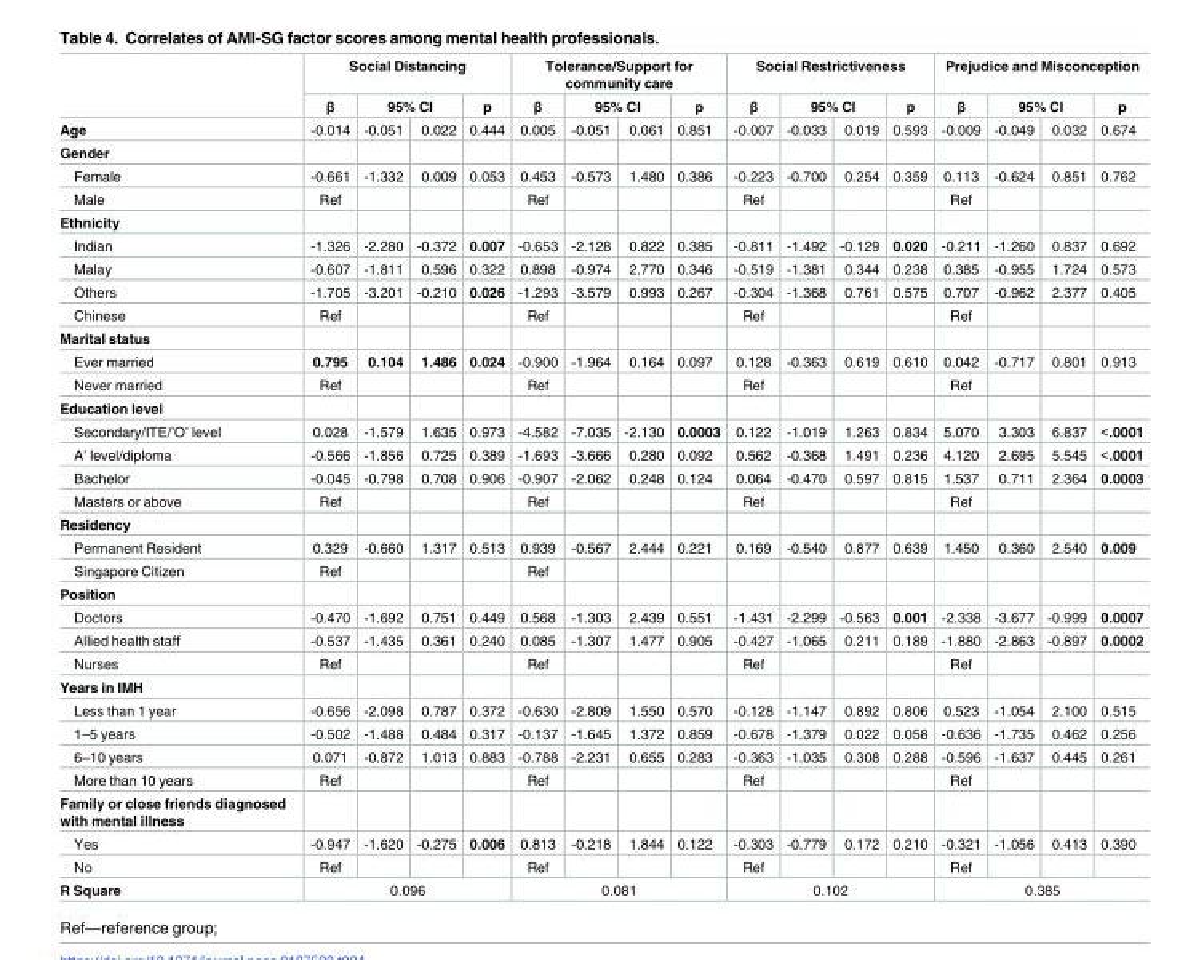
<table><thead><tr><td rowspan="3">Age</td><td colspan="4">Social Distancing</td><td colspan="4">Tolerance/Support for community care</td><td colspan="4">Social Restrictiveness</td><td colspan="4">Prejudice and Misconception</td></tr><tr><td rowspan="2">β -0.014</td><td colspan="2">95% CI</td><td rowspan="2">p 0.444</td><td rowspan="2">β 0.005</td><td colspan="2">95% CI</td><td rowspan="2">p 0.851</td><td rowspan="2">β -0.007</td><td colspan="2">95% CI</td><td rowspan="2">p 0.593</td><td rowspan="2">β -0.009</td><td colspan="2">95% CI</td><td rowspan="2">p 0.674</td></tr><tr><td>-0.051</td><td>0.022</td><td>-0.051</td><td>0.061</td><td>-0.033</td><td>0.019</td><td>-0.049</td><td>0.032</td></tr></thead><tbody><tr><td colspan="17">Gender</td></tr><tr><td>Female</td><td>-0.661</td><td>-1.332</td><td>0.009</td><td>0.053</td><td>0.453</td><td>-0.573</td><td>1.480</td><td>0.386</td><td>-0.223</td><td>-0.700</td><td>0.254</td><td>0.359</td><td>0.113</td><td>-0.624</td><td>0.851</td><td>0.762</td></tr><tr><td>Male</td><td>Ref</td><td></td><td></td><td></td><td>Ref</td><td></td><td></td><td></td><td>Ref</td><td></td><td></td><td></td><td>Ref</td><td></td><td></td><td></td></tr><tr><td colspan="17">Ethnicity</td></tr><tr><td>Indian</td><td>-1.326</td><td>-2.280</td><td>-0.372</td><td>0.007</td><td>-0.653</td><td>-2.128</td><td>0.822</td><td>0.385</td><td>-0.811</td><td>-1.492</td><td>-0.129</td><td>0.020</td><td>-0.211</td><td>-1.260</td><td>0.837</td><td>0.692</td></tr><tr><td>Malay</td><td>-0.607</td><td>-1.811</td><td>0.596</td><td>0.322</td><td>0.898</td><td>-0.974</td><td>2.770</td><td>0.346</td><td>-0.519</td><td>-1.381</td><td>0.344</td><td>0.238</td><td>0.385</td><td>-0.955</td><td>1.724</td><td>0.573</td></tr><tr><td>Others</td><td>-1.705</td><td>-3.201</td><td>-0.210</td><td>0.026</td><td>-1.293</td><td>-3.579</td><td>0.993</td><td>0.267</td><td>-0.304</td><td>-1.368</td><td>0.761</td><td>0.575</td><td>0.707</td><td>-0.962</td><td>2.377</td><td>0.405</td></tr><tr><td>Chinese</td><td>Ref</td><td></td><td></td><td></td><td>Ref</td><td></td><td></td><td></td><td>Ref</td><td></td><td></td><td></td><td>Ref</td><td></td><td></td><td></td></tr><tr><td colspan="17">Marital status</td></tr><tr><td>Ever married</td><td>0.795</td><td>0.104</td><td>1.486</td><td>0.024</td><td>-0.900</td><td>-1.964</td><td>0.164</td><td>0.097</td><td>0.128</td><td>-0.363</td><td>0.619</td><td>0.610</td><td>0.042</td><td>-0.717</td><td>0.801</td><td>0.913</td></tr><tr><td>Never married</td><td>Ref</td><td></td><td></td><td></td><td>Ref</td><td></td><td></td><td></td><td>Ref</td><td></td><td></td><td></td><td>Ref</td><td></td><td></td><td></td></tr><tr><td colspan="17">Education level</td></tr><tr><td>Secondary/ITE/’O’ level</td><td>0.028</td><td>-1.579</td><td>1.635</td><td>0.973</td><td>-4.582</td><td>-7.035</td><td>-2.130</td><td>0.0003</td><td>0.122</td><td>-1.019</td><td>1.263</td><td>0.834</td><td>5.070</td><td>3.303</td><td>6.837</td><td>&lt;.0001</td></tr><tr><td>A’ level/diploma</td><td>-0.566</td><td>-1.856</td><td>0.725</td><td>0.389</td><td>-1.693</td><td>-3.666</td><td>0.280</td><td>0.092</td><td>0.562</td><td>-0.368</td><td>1.491</td><td>0.236</td><td>4.120</td><td>2.695</td><td>5.545</td><td>&lt;.0001</td></tr><tr><td>Bachelor</td><td>-0.045</td><td>-0.798</td><td>0.708</td><td>0.906</td><td>-0.907</td><td>-2.062</td><td>0.248</td><td>0.124</td><td>0.064</td><td>-0.470</td><td>0.597</td><td>0.815</td><td>1.537</td><td>0.711</td><td>2.364</td><td>0.0003</td></tr><tr><td>Masters or above</td><td>Ref</td><td></td><td></td><td></td><td>Ref</td><td></td><td></td><td></td><td>Ref</td><td></td><td></td><td></td><td>Ref</td><td></td><td></td><td></td></tr><tr><td colspan="17">Residency</td></tr><tr><td>Permanent Resident</td><td>0.329</td><td>-0.660</td><td>1.317</td><td>0.513</td><td>0.939</td><td>-0.567</td><td>2.444</td><td>0.221</td><td>0.169</td><td>-0.540</td><td>0.877</td><td>0.639</td><td>1.450</td><td>0.360</td><td>2.540</td><td>0.009</td></tr><tr><td>Singapore Citizen</td><td>Ref</td><td></td><td></td><td></td><td>Ref</td><td></td><td></td><td></td><td></td><td></td><td></td><td></td><td></td><td></td><td></td><td></td></tr><tr><td colspan="17">Position</td></tr><tr><td>Doctors</td><td>-0.470</td><td>-1.692</td><td>0.751</td><td>0.449</td><td>0.568</td><td>-1.303</td><td>2.439</td><td>0.551</td><td>-1.431</td><td>-2.299</td><td>-0.563</td><td>0.001</td><td>-2.338</td><td>-3.677</td><td>-0.999</td><td>0.0007</td></tr><tr><td>Allied health staff</td><td>-0.537</td><td>-1.435</td><td>0.361</td><td>0.240</td><td>0.085</td><td>-1.307</td><td>1.477</td><td>0.905</td><td>-0.427</td><td>-1.065</td><td>0.211</td><td>0.189</td><td>-1.880</td><td>-2.863</td><td>-0.897</td><td>0.0002</td></tr><tr><td>Nurses</td><td>Ref</td><td></td><td></td><td></td><td>Ref</td><td></td><td></td><td></td><td>Ref</td><td></td><td></td><td></td><td>Ref</td><td></td><td></td><td></td></tr><tr><td colspan="17">Years in IMH</td></tr><tr><td>Less than 1 year</td><td>-0.656</td><td>-2.098</td><td>0.787</td><td>0.372</td><td>-0.630</td><td>-2.809</td><td>1.550</td><td>0.570</td><td>-0.128</td><td>-1.147</td><td>0.892</td><td>0.806</td><td>0.523</td><td>-1.054</td><td>2.100</td><td>0.515</td></tr><tr><td>1–5 years</td><td>-0.502</td><td>-1.488</td><td>0.484</td><td>0.317</td><td>-0.137</td><td>-1.645</td><td>1.372</td><td>0.859</td><td>-0.678</td><td>-1.379</td><td>0.022</td><td>0.058</td><td>-0.636</td><td>-1.735</td><td>0.462</td><td>0.256</td></tr><tr><td>6–10 years</td><td>0.071</td><td>-0.872</td><td>1.013</td><td>0.883</td><td>-0.788</td><td>-2.231</td><td>0.655</td><td>0.283</td><td>-0.363</td><td>-1.035</td><td>0.308</td><td>0.288</td><td>-0.596</td><td>-1.637</td><td>0.445</td><td>0.261</td></tr><tr><td>More than 10 years</td><td>Ref</td><td></td><td></td><td></td><td>Ref</td><td></td><td></td><td></td><td>Ref</td><td></td><td></td><td></td><td>Ref</td><td></td><td></td><td></td></tr><tr><td colspan="17">Family or close friends diagnosed with mental illness</td></tr><tr><td>Yes</td><td>-0.947</td><td>-1.620</td><td>-0.275</td><td>0.006</td><td>0.813</td><td>-0.218</td><td>1.844</td><td>0.122</td><td>-0.303</td><td>-0.779</td><td>0.172</td><td>0.210</td><td>-0.321</td><td>-1.056</td><td>0.413</td><td>0.390</td></tr><tr><td>No</td><td>Ref</td><td></td><td></td><td></td><td>Ref</td><td></td><td></td><td></td><td>Ref</td><td></td><td></td><td></td><td>Ref</td><td></td><td></td><td></td></tr><tr><td>R Square</td><td colspan="4">0.096</td><td colspan="4">0.081</td><td colspan="4">0.102</td><td colspan="4">0.385</td></tr></tbody></table>